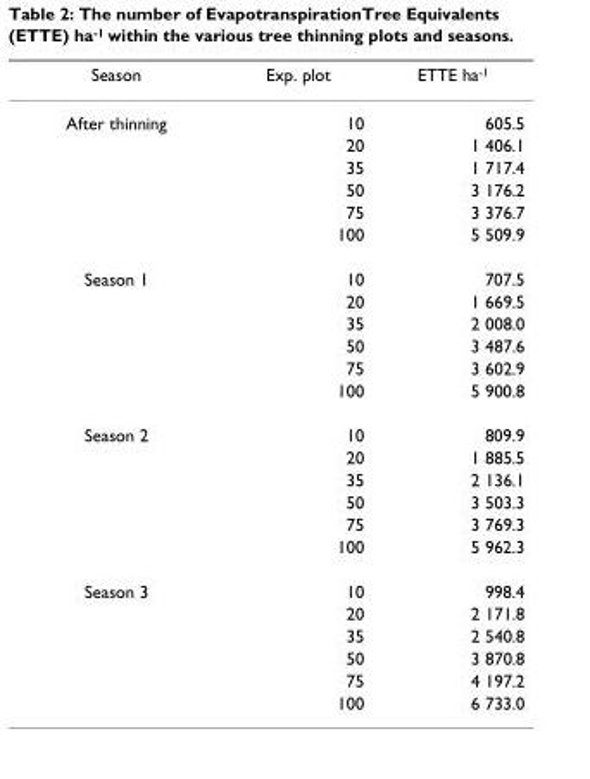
<table><thead><tr><td>Season</td><td>Exp. plot</td><td>ETTE ha<sup>-1</sup></td></tr></thead><tbody><tr><td rowspan="6">After thinning</td><td>10</td><td>605.5</td></tr><tr><td>20</td><td>1 406.1</td></tr><tr><td>35</td><td>1 717.4</td></tr><tr><td>50</td><td>3 176.2</td></tr><tr><td>75</td><td>3 376.7</td></tr><tr><td>100</td><td>5 509.9</td></tr><tr><td rowspan="6">Season 1</td><td>10</td><td>707.5</td></tr><tr><td>20</td><td>1 669.5</td></tr><tr><td>35</td><td>2 008.0</td></tr><tr><td>50</td><td>3 487.6</td></tr><tr><td>75</td><td>3 602.9</td></tr><tr><td>100</td><td>5 900.8</td></tr><tr><td rowspan="6">Season 2</td><td>10</td><td>809.9</td></tr><tr><td>20</td><td>1 885.5</td></tr><tr><td>35</td><td>2 136.1</td></tr><tr><td>50</td><td>3 503.3</td></tr><tr><td>75</td><td>3 769.3</td></tr><tr><td>100</td><td>5 962.3</td></tr><tr><td rowspan="6">Season 3</td><td>10</td><td>998.4</td></tr><tr><td>20</td><td>2 171.8</td></tr><tr><td>35</td><td>2 540.8</td></tr><tr><td>50</td><td>3 870.8</td></tr><tr><td>75</td><td>4 197.2</td></tr><tr><td>100</td><td>6 733.0</td></tr></tbody></table>